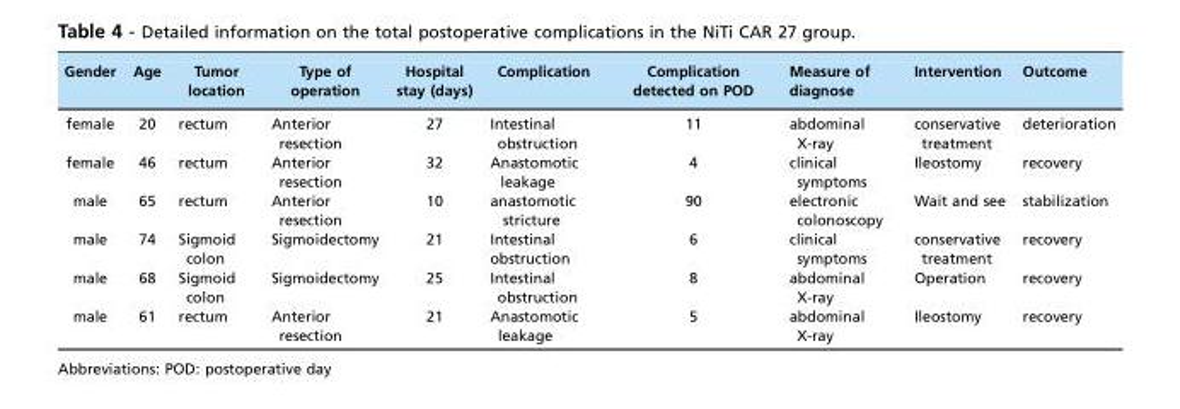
<table><thead><tr><td>Gender</td><td>Age</td><td>Tumor location</td><td>Type of operation</td><td>Hospital stay (days)</td><td>Complication</td><td>Complication detected on POD</td><td>Measure of diagnose</td><td>Intervention</td><td>Outcome</td></tr></thead><tbody><tr><td>female</td><td>20</td><td>rectum</td><td>Anterior resection</td><td>27</td><td>Intestinal obstruction</td><td>11</td><td>abdominal X-ray</td><td>conservative treatment</td><td>deterioration</td></tr><tr><td>female</td><td>46</td><td>rectum</td><td>Anterior resection</td><td>32</td><td>Anastomotic leakage</td><td>4</td><td>clinical symptoms</td><td>Ileostomy</td><td>recovery</td></tr><tr><td>male</td><td>65</td><td>rectum</td><td>Anterior resection</td><td>10</td><td>anastomotic stricture</td><td>90</td><td>electronic colonoscopy</td><td>Wait and see</td><td>stabilization</td></tr><tr><td>male</td><td>74</td><td>Sigmoid colon</td><td>Sigmoidectomy</td><td>21</td><td>Intestinal obstruction</td><td>6</td><td>clinical symptoms</td><td>conservative treatment</td><td>recovery</td></tr><tr><td>male</td><td>68</td><td>Sigmoid colon</td><td>Sigmoidectomy</td><td>25</td><td>Intestinal obstruction</td><td>8</td><td>abdominal X-ray</td><td>Operation</td><td>recovery</td></tr><tr><td>male</td><td>61</td><td>rectum</td><td>Anterior resection</td><td>21</td><td>Anastomotic leakage</td><td>5</td><td>abdominal X-ray</td><td>Ileostomy</td><td>recovery</td></tr></tbody></table>